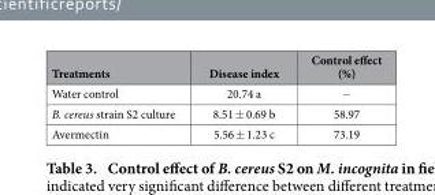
<table><thead><tr><td>Treatments</td><td>Disease index</td><td>Control effect (%)</td></tr></thead><tbody><tr><td>Water control</td><td>20.74 a</td><td>−</td></tr><tr><td>B. cereus strain S2 culture</td><td>8.51 ± 0.69 b</td><td>58.97</td></tr><tr><td>Avermectin</td><td>5.56 ± 1.23 c</td><td>73.19</td></tr></tbody></table>